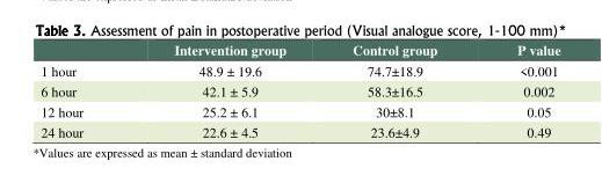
<table><thead><tr><td></td><td>Intervention group</td><td>Control group</td><td>P value</td></tr></thead><tbody><tr><td>1 hour</td><td>48.9 ± 19.6</td><td>74.7±18.9</td><td>&lt;0.001</td></tr><tr><td>6 hour</td><td>42.1 ± 5.9</td><td>58.3±16.5</td><td>0.002</td></tr><tr><td>12 hour</td><td>25.2 ± 6.1</td><td>30±8.1</td><td>0.05</td></tr><tr><td>24 hour</td><td>22.6 ± 4.5</td><td>23.6±4.9</td><td>0.49</td></tr></tbody></table>